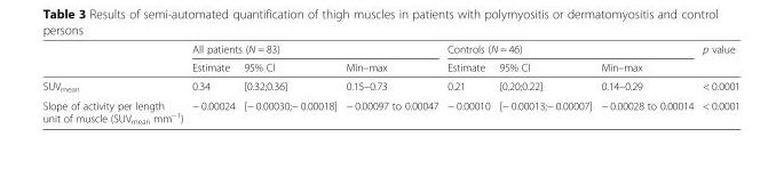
<table><thead><tr><td rowspan="2"></td><td colspan="3">All patients (N = 83)</td><td colspan="3">Controls (N = 46)</td><td rowspan="2">p value</td></tr><tr><td>Estimate</td><td>95% CI</td><td>Min–max</td><td>Estimate</td><td>95% CI</td><td>Min–max</td></tr></thead><tbody><tr><td>SUV<sub>mean</sub></td><td>0.34</td><td>[0.32;0.36]</td><td>0.15–0.73</td><td>0.21</td><td>[0.20;0.22]</td><td>0.14–0.29</td><td>&lt; 0.0001</td></tr><tr><td>Slope of activity per length unit of muscle (SUV<sub>mean</sub> mm<sup>−1</sup>)</td><td>− 0.00024</td><td>[− 0.00030;− 0.00018]</td><td>− 0.00097 to 0.00047</td><td>− 0.00010</td><td>[− 0.00013;− 0.00007]</td><td>− 0.00028 to 0.00014</td><td>&lt; 0.0001</td></tr></tbody></table>